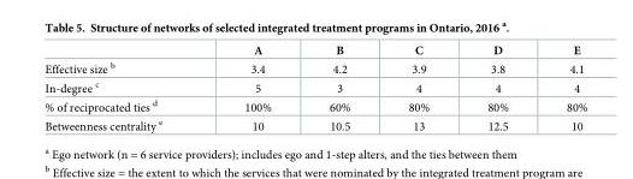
<table><thead><tr><td></td><td>A</td><td>B</td><td>C</td><td>D</td><td>E</td></tr></thead><tbody><tr><td>Effective size <sup>b</sup></td><td>3.4</td><td>4.2</td><td>3.9</td><td>3.8</td><td>4.1</td></tr><tr><td>In-degree <sup>c</sup></td><td>5</td><td>3</td><td>4</td><td>4</td><td>4</td></tr><tr><td>% of reciprocated ties <sup>d</sup></td><td>100%</td><td>60%</td><td>80%</td><td>80%</td><td>80%</td></tr><tr><td>Betweenness centrality <sup>e</sup></td><td>10</td><td>10.5</td><td>13</td><td>12.5</td><td>10</td></tr></tbody></table>